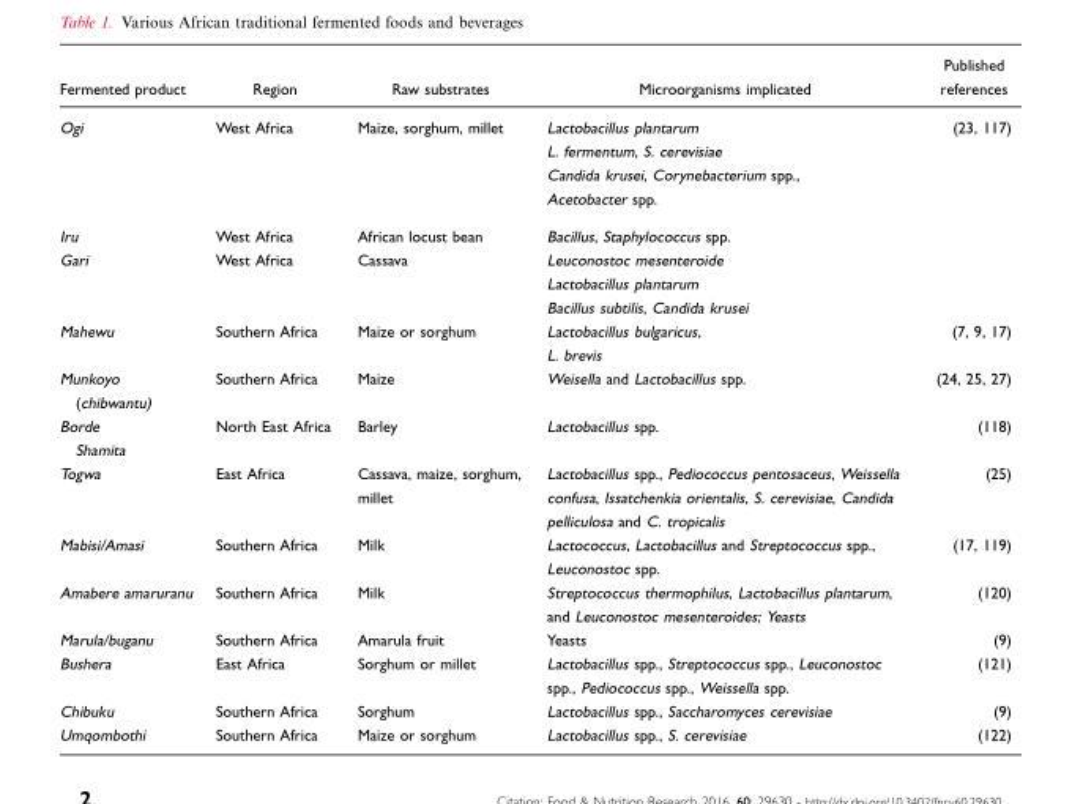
<table><thead><tr><td>Fermented product</td><td>Region</td><td>Raw substrates</td><td>Microorganisms implicated</td><td>Published references</td></tr></thead><tbody><tr><td>Ogi</td><td>West Africa</td><td>Maize, sorghum, millet</td><td>Lactobacillus plantarum L. fermentum, S. cerevisiae Candida krusei, Corynebacterium spp., Acetobacter spp.</td><td>(23, 117)</td></tr><tr><td>Iru</td><td>West Africa</td><td>African locust bean</td><td>Bacillus, Staphylococcus spp.</td><td></td></tr><tr><td>Gari</td><td>West Africa</td><td>Cassava</td><td>Leuconostoc mesenteroide Lactobacillus plantarum Bacillus subtilis, Candida krusei</td><td></td></tr><tr><td>Mahewu</td><td>Southern Africa</td><td>Maize or sorghum</td><td>Lactobacillus bulgaricus, L. brevis</td><td>(7, 9, 17)</td></tr><tr><td>Munkoyo (chibwantu)</td><td>Southern Africa</td><td>Maize</td><td>Weisella and Lactobacillus spp.</td><td>(24, 25, 27)</td></tr><tr><td>Borde Shamita</td><td>North East Africa</td><td>Barley</td><td>Lactobacillus spp.</td><td>(118)</td></tr><tr><td>Togwa</td><td>East Africa</td><td>Cassava, maize, sorghum, millet</td><td>Lactobacillus spp., Pediococcus pentosaceus, Weissella confusa, Issatchenkia orientalis, S. cerevisiae, Candida pelliculosa and C. tropicalis</td><td>(25)</td></tr><tr><td>Mabisi/Amasi</td><td>Southern Africa</td><td>Milk</td><td>Lactococcus, Lactobacillus and Streptococcus spp., Leuconostoc spp.</td><td>(17, 119)</td></tr><tr><td>Amabere amaruranu</td><td>Southern Africa</td><td>Milk</td><td>Streptococcus thermophilus, Lactobacillus plantarum, and Leuconostoc mesenteroides; Yeasts</td><td>(120)</td></tr><tr><td>Marula/buganu</td><td>Southern Africa</td><td>Amarula fruit</td><td>Yeasts</td><td>(9)</td></tr><tr><td>Bushera</td><td>East Africa</td><td>Sorghum or millet</td><td>Lactobacillus spp., Streptococcus spp., Leuconostoc spp., Pediococcus spp., Weissella spp.</td><td>(121)</td></tr><tr><td>Chibuku</td><td>Southern Africa</td><td>Sorghum</td><td>Lactobacillus spp., Saccharomyces cerevisiae</td><td>(9)</td></tr><tr><td>Umqombothi</td><td>Southern Africa</td><td>Maize or sorghum</td><td>Lactobacillus spp., S. cerevisiae</td><td>(122)</td></tr></tbody></table>